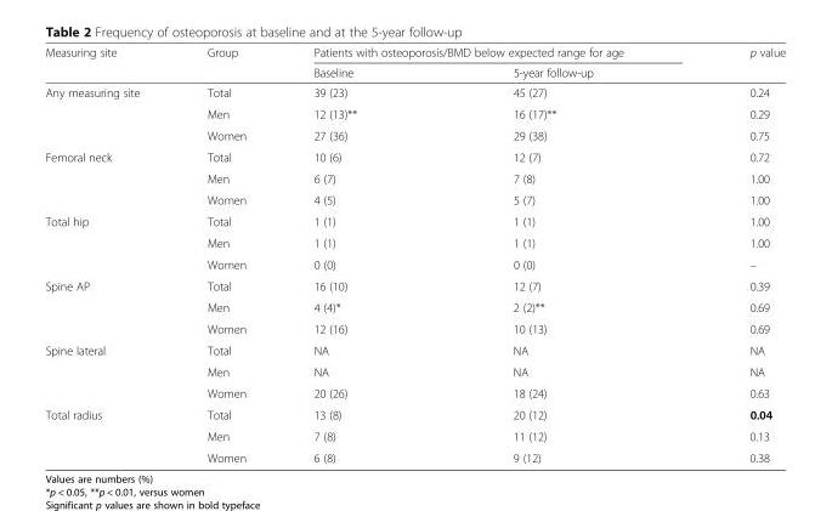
<table><thead><tr><td rowspan="2">Measuring site</td><td rowspan="2">Group</td><td colspan="2">Patients with osteoporosis/BMD below expected range for age</td><td rowspan="2">p value</td></tr><tr><td>Baseline</td><td>5-year follow-up</td></tr></thead><tbody><tr><td rowspan="3">Any measuring site</td><td>Total</td><td>39 (23)</td><td>45 (27)</td><td>0.24</td></tr><tr><td>Men</td><td>12 (13)**</td><td>16 (17)**</td><td>0.29</td></tr><tr><td>Women</td><td>27 (36)</td><td>29 (38)</td><td>0.75</td></tr><tr><td rowspan="3">Femoral neck</td><td>Total</td><td>10 (6)</td><td>12 (7)</td><td>0.72</td></tr><tr><td>Men</td><td>6 (7)</td><td>7 (8)</td><td>1.00</td></tr><tr><td>Women</td><td>4 (5)</td><td>5 (7)</td><td>1.00</td></tr><tr><td rowspan="3">Total hip</td><td>Total</td><td>1 (1)</td><td>1 (1)</td><td>1.00</td></tr><tr><td>Men</td><td>1 (1)</td><td>1 (1)</td><td>1.00</td></tr><tr><td>Women</td><td>0 (0)</td><td>0 (0)</td><td>–</td></tr><tr><td rowspan="3">Spine AP</td><td>Total</td><td>16 (10)</td><td>12 (7)</td><td>0.39</td></tr><tr><td>Men</td><td>4 (4)*</td><td>2 (2)**</td><td>0.69</td></tr><tr><td>Women</td><td>12 (16)</td><td>10 (13)</td><td>0.69</td></tr><tr><td rowspan="3">Spine lateral</td><td>Total</td><td>NA</td><td>NA</td><td>NA</td></tr><tr><td>Men</td><td>NA</td><td>NA</td><td>NA</td></tr><tr><td>Women</td><td>20 (26)</td><td>18 (24)</td><td>0.63</td></tr><tr><td rowspan="3">Total radius</td><td>Total</td><td>13 (8)</td><td>20 (12)</td><td>0.04</td></tr><tr><td>Men</td><td>7 (8)</td><td>11 (12)</td><td>0.13</td></tr><tr><td>Women</td><td>6 (8)</td><td>9 (12)</td><td>0.38</td></tr></tbody></table>